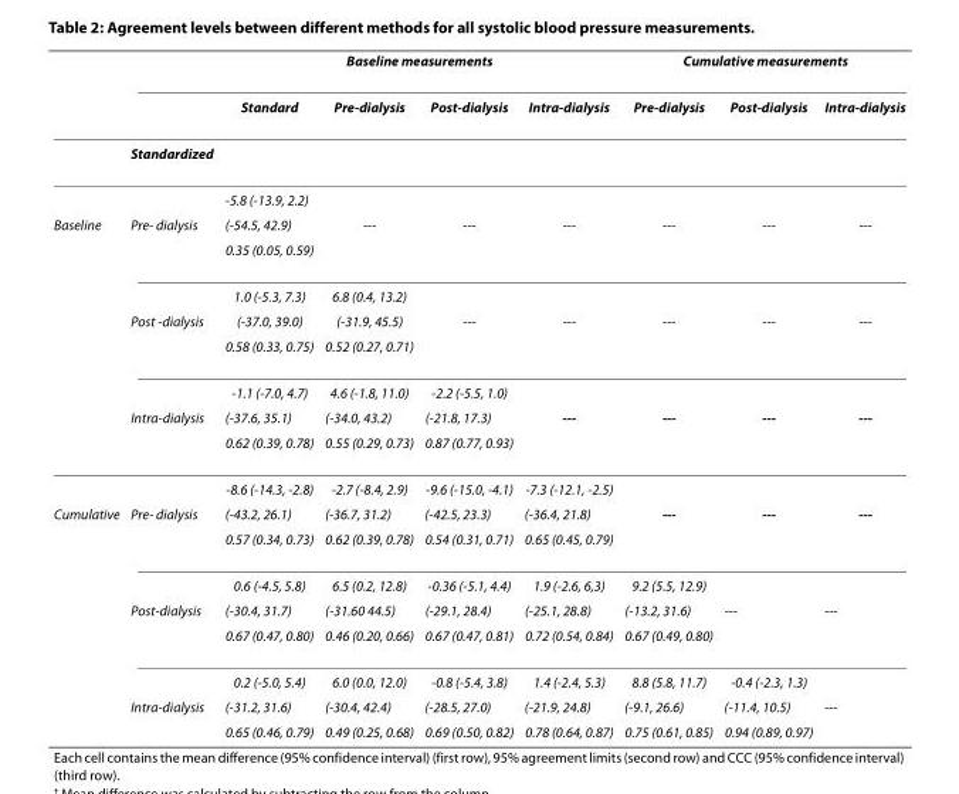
<table><thead><tr><td rowspan="2"></td><td rowspan="2"></td><td colspan="4">Baseline measurements</td><td colspan="3">Cumulative measurements</td></tr><tr><td>Standard</td><td>Pre-dialysis</td><td>Post-dialysis</td><td>Intra-dialysis</td><td>Pre-dialysis</td><td>Post-dialysis</td><td>Intra-dialysis</td></tr></thead><tbody><tr><td></td><td>Standardized</td><td></td><td></td><td></td><td></td><td></td><td></td><td></td></tr><tr><td></td><td></td><td>-5.8 (-13.9, 2.2)</td><td></td><td></td><td></td><td></td><td></td><td></td></tr><tr><td rowspan="9">Baseline</td><td>Pre- dialysis</td><td>(-54.5, 42.9)</td><td>---</td><td>---</td><td>---</td><td>---</td><td>---</td><td>---</td></tr><tr><td></td><td>0.35 (0.05, 0.59)</td><td></td><td></td><td></td><td></td><td></td><td></td></tr><tr><td></td><td>1.0 (-5.3, 7.3)</td><td>6.8 (0.4, 13.2)</td><td></td><td></td><td></td><td></td><td></td></tr><tr><td>Post -dialysis</td><td>(-37.0, 39.0)</td><td>(-31.9, 45.5)</td><td>---</td><td>---</td><td>---</td><td>---</td><td>---</td></tr><tr><td></td><td>0.58 (0.33, 0.75)</td><td>0.52 (0.27, 0.71)</td><td></td><td></td><td></td><td></td><td></td></tr><tr><td></td><td>-1.1 (-7.0, 4.7)</td><td>4.6 (-1.8, 11.0)</td><td>-2.2 (-5.5, 1.0)</td><td></td><td></td><td></td><td></td></tr><tr><td>Intra-dialysis</td><td>(-37.6, 35.1)</td><td>(-34.0, 43.2)</td><td>(-21.8, 17.3)</td><td>---</td><td>---</td><td>---</td><td>---</td></tr><tr><td></td><td>0.62 (0.39, 0.78)</td><td>0.55 (0.29, 0.73)</td><td>0.87 (0.77, 0.93)</td><td></td><td></td><td></td><td></td></tr><tr><td></td><td>-8.6 (-14.3, -2.8)</td><td>-2.7 (-8.4, 2.9)</td><td>-9.6 (-15.0, -4.1)</td><td>-7.3 (-12.1, -2.5)</td><td></td><td></td><td></td></tr><tr><td rowspan="8">Cumulative</td><td>Pre- dialysis</td><td>(-43.2, 26.1)</td><td>(-36.7, 31.2)</td><td>(-42.5, 23.3)</td><td>(-36.4, 21.8)</td><td>---</td><td>---</td><td>---</td></tr><tr><td></td><td>0.57 (0.34, 0.73)</td><td>0.62 (0.39, 0.78)</td><td>0.54 (0.31, 0.71)</td><td>0.65 (0.45, 0.79)</td><td></td><td></td><td></td></tr><tr><td></td><td>0.6 (-4.5, 5.8)</td><td>6.5 (0.2, 12.8)</td><td>-0.36 (-5.1, 4.4)</td><td>1.9 (-2.6, 6,3)</td><td>9.2 (5.5, 12.9)</td><td></td><td></td></tr><tr><td>Post-dialysis</td><td>(-30.4, 31.7)</td><td>(-31.60 44.5)</td><td>(-29.1, 28.4)</td><td>(-25.1, 28.8)</td><td>(-13.2, 31.6)</td><td>---</td><td>---</td></tr><tr><td></td><td>0.67 (0.47, 0.80)</td><td>0.46 (0.20, 0.66)</td><td>0.67 (0.47, 0.81)</td><td>0.72 (0.54, 0.84)</td><td>0.67 (0.49, 0.80)</td><td></td><td></td></tr><tr><td></td><td>0.2 (-5.0, 5.4)</td><td>6.0 (0.0, 12.0)</td><td>-0.8 (-5.4, 3.8)</td><td>1.4 (-2.4, 5.3)</td><td>8.8 (5.8, 11.7)</td><td>-0.4 (-2.3, 1.3)</td><td></td></tr><tr><td>Intra-dialysis</td><td>(-31.2, 31.6)</td><td>(-30.4, 42.4)</td><td>(-28.5, 27.0)</td><td>(-21.9, 24.8)</td><td>(-9.1, 26.6)</td><td>(-11.4, 10.5)</td><td>---</td></tr><tr><td></td><td>0.65 (0.46, 0.79)</td><td>0.49 (0.25, 0.68)</td><td>0.69 (0.50, 0.82)</td><td>0.78 (0.64, 0.87)</td><td>0.75 (0.61, 0.85)</td><td>0.94 (0.89, 0.97)</td><td></td></tr></tbody></table>